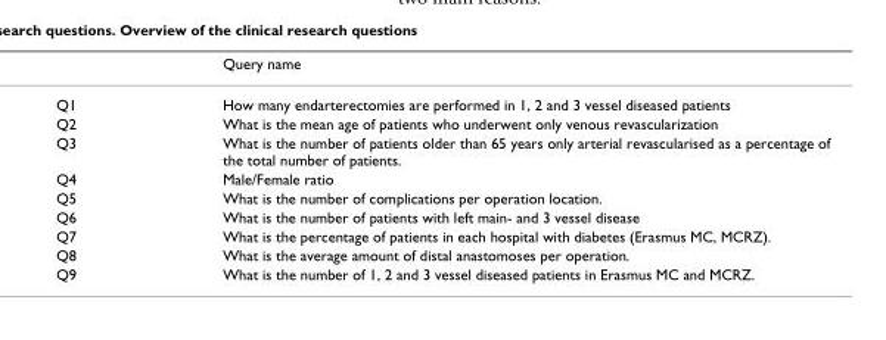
<table><thead><tr><td></td><td>Query name</td></tr></thead><tbody><tr><td>Q1</td><td>How many endarterectomies are performed in 1, 2 and 3 vessel diseased patients</td></tr><tr><td>Q2</td><td>What is the mean age of patients who underwent only venous revascularization</td></tr><tr><td>Q3</td><td>What is the number of patients older than 65 years only arterial revascularised as a percentage of the total number of patients.</td></tr><tr><td>Q4</td><td>Male/Female ratio</td></tr><tr><td>Q5</td><td>What is the number of complications per operation location.</td></tr><tr><td>Q6</td><td>What is the number of patients with left main- and 3 vessel disease</td></tr><tr><td>Q7</td><td>What is the percentage of patients in each hospital with diabetes (Erasmus MC, MCRZ).</td></tr><tr><td>Q8</td><td>What is the average amount of distal anastomoses per operation.</td></tr><tr><td>Q9</td><td>What is the number of 1, 2 and 3 vessel diseased patients in Erasmus MC and MCRZ.</td></tr></tbody></table>